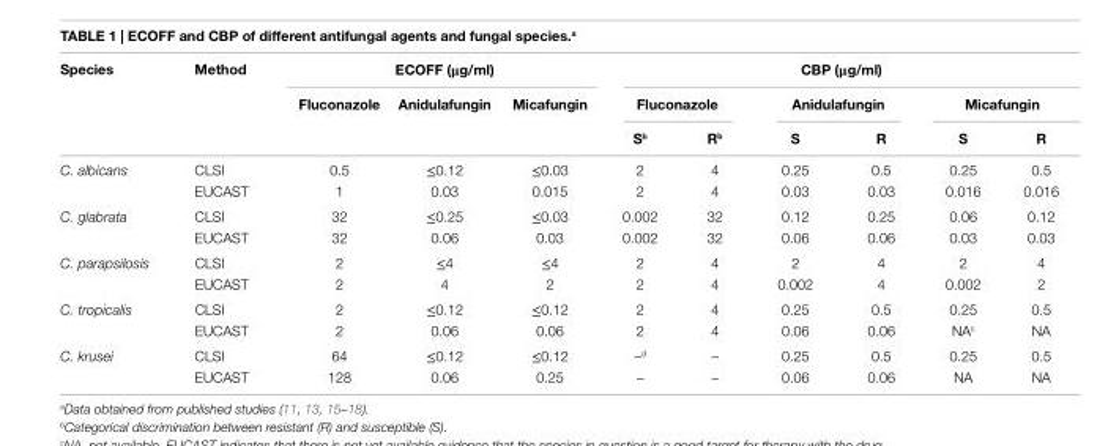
<table><thead><tr><td rowspan="3">Species</td><td rowspan="3">Method</td><td colspan="3">eCOFF (μg/ml)</td><td colspan="6">CBP (μg/ml)</td></tr><tr><td rowspan="2">Fluconazole</td><td rowspan="2">Anidulafungin</td><td rowspan="2">Micafungin</td><td colspan="2">Fluconazole</td><td colspan="2">Anidulafungin</td><td colspan="2">Micafungin</td></tr><tr><td>S<sup>b</sup></td><td>R<sup>b</sup></td><td>S</td><td>R</td><td>S</td><td>R</td></tr></thead><tbody><tr><td rowspan="2">C. albicans</td><td>CLSI</td><td>0.5</td><td>≤0.12</td><td>≤0.03</td><td>2</td><td>4</td><td>0.25</td><td>0.5</td><td>0.25</td><td>0.5</td></tr><tr><td>EUCAST</td><td>1</td><td>0.03</td><td>0.015</td><td>2</td><td>4</td><td>0.03</td><td>0.03</td><td>0.016</td><td>0.016</td></tr><tr><td rowspan="2">C. glabrata</td><td>CLSI</td><td>32</td><td>≤0.25</td><td>≤0.03</td><td>0.002</td><td>32</td><td>0.12</td><td>0.25</td><td>0.06</td><td>0.12</td></tr><tr><td>EUCAST</td><td>32</td><td>0.06</td><td>0.03</td><td>0.002</td><td>32</td><td>0.06</td><td>0.06</td><td>0.03</td><td>0.03</td></tr><tr><td rowspan="2">C. parapsilosis</td><td>CLSI</td><td>2</td><td>≤4</td><td>≤4</td><td>2</td><td>4</td><td>2</td><td>4</td><td>2</td><td>4</td></tr><tr><td>EUCAST</td><td>2</td><td>4</td><td>2</td><td>2</td><td>4</td><td>0.002</td><td>4</td><td>0.002</td><td>2</td></tr><tr><td rowspan="2">C. tropicalis</td><td>CLSI</td><td>2</td><td>≤0.12</td><td>≤0.12</td><td>2</td><td>4</td><td>0.25</td><td>0.5</td><td>0.25</td><td>0.5</td></tr><tr><td>EUCAST</td><td>2</td><td>0.06</td><td>0.06</td><td>2</td><td>4</td><td>0.06</td><td>0.06</td><td>NA<sup>c</sup></td><td>NA</td></tr><tr><td rowspan="2">C. krusei</td><td>CLSI</td><td>64</td><td>≤0.12</td><td>≤0.12</td><td>–<sup>d</sup></td><td>–</td><td>0.25</td><td>0.5</td><td>0.25</td><td>0.5</td></tr><tr><td>EUCAST</td><td>128</td><td>0.06</td><td>0.25</td><td>–</td><td>–</td><td>0.06</td><td>0.06</td><td>NA</td><td>NA</td></tr></tbody></table>